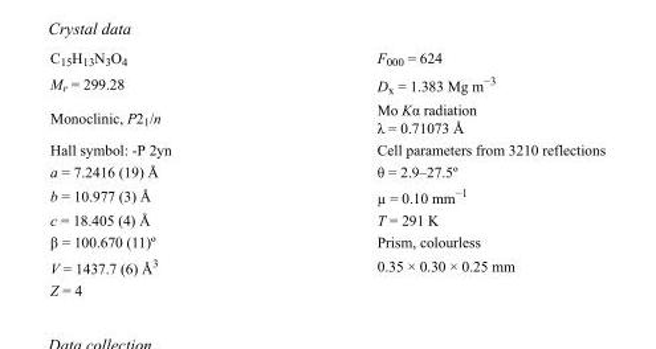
<table><tbody><tr><td>C<sub>15</sub>H<sub>13</sub>N<sub>3</sub>O<sub>4</sub></td><td>F000 = 624</td></tr><tr><td>M<sub>r</sub> = 299.28</td><td>D<sub>x</sub> = 1.383 Mg m<sup>−3</sup></td></tr><tr><td>Monoclinic, P2<sub>1</sub>/n</td><td>Mo Kα radiation λ = 0.71073 Å</td></tr><tr><td>Hall symbol: -P 2yn</td><td>Cell parameters from 3210 reflections</td></tr><tr><td>a = 7.2416 (19) Å</td><td>θ = 2.9–27.5º</td></tr><tr><td>b = 10.977 (3) Å</td><td>µ = 0.10 mm<sup>−1</sup></td></tr><tr><td>c = 18.405 (4) Å</td><td>T = 291 K</td></tr><tr><td>β = 100.670 (11)º</td><td>Prism, colourless</td></tr><tr><td>V = 1437.7 (6) Å<sup>3</sup></td><td>0.35 × 0.30 × 0.25 mm</td></tr><tr><td>Z = 4</td><td></td></tr></tbody></table>